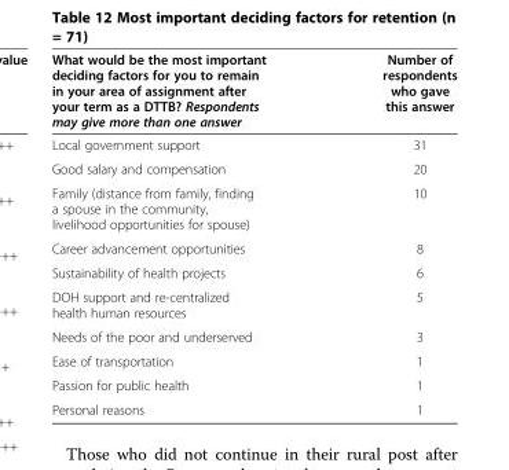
<table><thead><tr><td>What would be the most important deciding factors for you to remain in your area of assignment after your term as a DTTB? Respondents may give more than one answer</td><td>Number of respondents who gave this answer</td></tr></thead><tbody><tr><td>Local government support</td><td>31</td></tr><tr><td>Good salary and compensation</td><td>20</td></tr><tr><td>Family (distance from family, finding a spouse in the community, livelihood opportunities for spouse)</td><td>10</td></tr><tr><td>Career advancement opportunities</td><td>8</td></tr><tr><td>Sustainability of health projects</td><td>6</td></tr><tr><td>DOH support and re-centralized health human resources</td><td>5</td></tr><tr><td>Needs of the poor and underserved</td><td>3</td></tr><tr><td>Ease of transportation</td><td>1</td></tr><tr><td>Passion for public health</td><td>1</td></tr><tr><td>Personal reasons</td><td>1</td></tr></tbody></table>